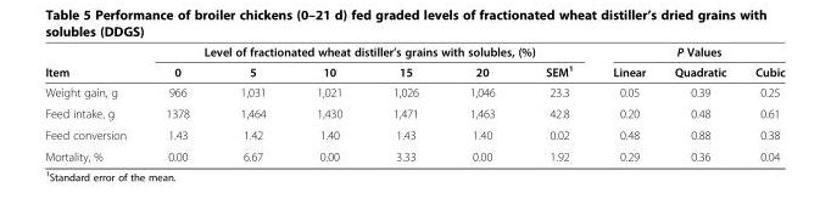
<table><thead><tr><td rowspan="2">Item</td><td colspan="6">Level of fractionated wheat distiller’s grains with solubles, (%)</td><td colspan="3">P Values</td></tr><tr><td>0</td><td>5</td><td>10</td><td>15</td><td>20</td><td>SEM<sup>1</sup></td><td>Linear</td><td>Quadratic</td><td>Cubic</td></tr></thead><tbody><tr><td>Weight gain, g</td><td>966</td><td>1,031</td><td>1,021</td><td>1,026</td><td>1,046</td><td>23.3</td><td>0.05</td><td>0.39</td><td>0.25</td></tr><tr><td>Feed intake, g</td><td>1378</td><td>1,464</td><td>1,430</td><td>1,471</td><td>1,463</td><td>42.8</td><td>0.20</td><td>0.48</td><td>0.61</td></tr><tr><td>Feed conversion</td><td>1.43</td><td>1.42</td><td>1.40</td><td>1.43</td><td>1.40</td><td>0.02</td><td>0.48</td><td>0.88</td><td>0.38</td></tr><tr><td>Mortality, %</td><td>0.00</td><td>6.67</td><td>0.00</td><td>3.33</td><td>0.00</td><td>1.92</td><td>0.29</td><td>0.36</td><td>0.04</td></tr></tbody></table>